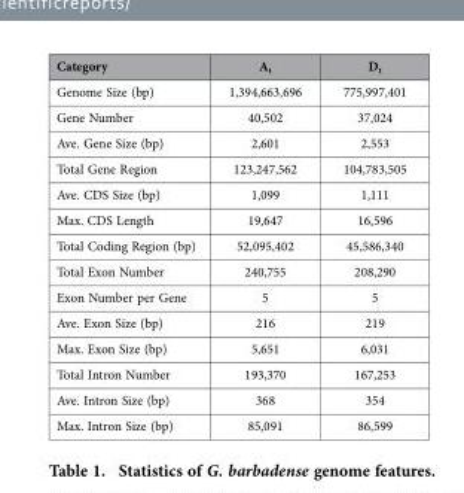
<table><thead><tr><td>Category</td><td>A<sub>t</sub></td><td>D<sub>t</sub></td></tr></thead><tbody><tr><td>Genome Size (bp)</td><td>1,394,663,696</td><td>775,997,401</td></tr><tr><td>Gene Number</td><td>40,502</td><td>37,024</td></tr><tr><td>Ave. Gene Size (bp)</td><td>2,601</td><td>2,553</td></tr><tr><td>Total Gene Region</td><td>123,247,562</td><td>104,783,505</td></tr><tr><td>Ave. CDS Size (bp)</td><td>1,099</td><td>1,111</td></tr><tr><td>Max. CDS Length</td><td>19,647</td><td>16,596</td></tr><tr><td>Total Coding Region (bp)</td><td>52,095,402</td><td>45,586,340</td></tr><tr><td>Total Exon Number</td><td>240,755</td><td>208,290</td></tr><tr><td>Exon Number per Gene</td><td>5</td><td>5</td></tr><tr><td>Ave. Exon Size (bp)</td><td>216</td><td>219</td></tr><tr><td>Max. Exon Size (bp)</td><td>5,651</td><td>6,031</td></tr><tr><td>Total Intron Number</td><td>193,370</td><td>167,253</td></tr><tr><td>Ave. Intron Size (bp)</td><td>368</td><td>354</td></tr><tr><td>Max. Intron Size (bp)</td><td>85,091</td><td>86,599</td></tr></tbody></table>